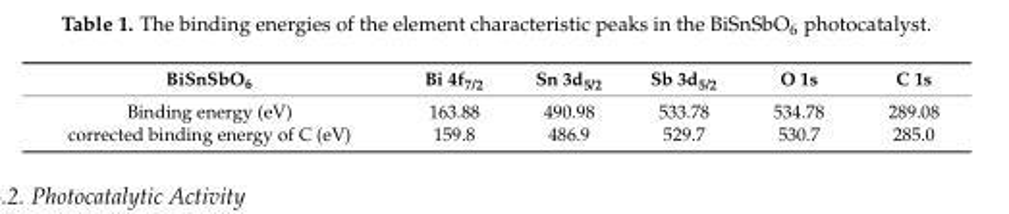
<table><thead><tr><td>BiSnSbO6</td><td>Bi 4f7/2</td><td>Sn 3d5/2</td><td>Sb 3d5/2</td><td>O 1s</td><td>C 1s</td></tr></thead><tbody><tr><td>Binding energy (eV)</td><td>163.88</td><td>490.98</td><td>533.78</td><td>534.78</td><td>289.08</td></tr><tr><td>corrected binding energy of C (eV)</td><td>159.8</td><td>486.9</td><td>529.7</td><td>530.7</td><td>285.0</td></tr></tbody></table>